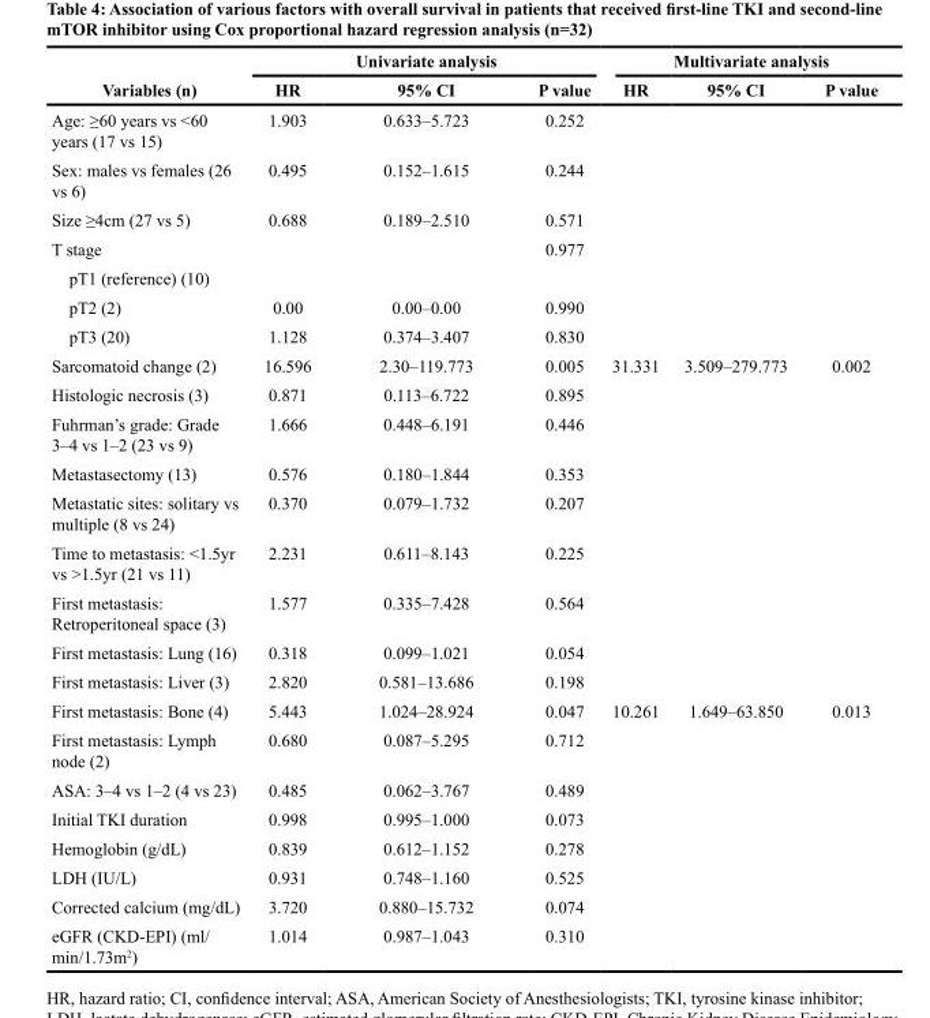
<table><thead><tr><td rowspan="2">Variables (n)</td><td colspan="3">Univariate analysis</td><td colspan="3">Multivariate analysis</td></tr><tr><td>HR</td><td>95% CI</td><td>P value</td><td>HR</td><td>95% CI</td><td>P value</td></tr></thead><tbody><tr><td>Age: ≥60 years vs &lt;60 years (17 vs 15)</td><td>1.903</td><td>0.633–5.723</td><td>0.252</td><td></td><td></td><td></td></tr><tr><td>Sex: males vs females (26 vs 6)</td><td>0.495</td><td>0.152–1.615</td><td>0.244</td><td></td><td></td><td></td></tr><tr><td>Size ≥4cm (27 vs 5)</td><td>0.688</td><td>0.189–2.510</td><td>0.571</td><td></td><td></td><td></td></tr><tr><td>T stage</td><td></td><td></td><td>0.977</td><td></td><td></td><td></td></tr><tr><td colspan="7">pT1 (reference) (10)</td></tr><tr><td>pT2 (2)</td><td>0.00</td><td>0.00–0.00</td><td>0.990</td><td></td><td></td><td></td></tr><tr><td>pT3 (20)</td><td>1.128</td><td>0.374–3.407</td><td>0.830</td><td></td><td></td><td></td></tr><tr><td>Sarcomatoid change (2)</td><td>16.596</td><td>2.30–119.773</td><td>0.005</td><td>31.331</td><td>3.509–279.773</td><td>0.002</td></tr><tr><td>Histologic necrosis (3)</td><td>0.871</td><td>0.113–6.722</td><td>0.895</td><td></td><td></td><td></td></tr><tr><td>Fuhrman’s grade: Grade 3–4 vs 1–2 (23 vs 9)</td><td>1.666</td><td>0.448–6.191</td><td>0.446</td><td></td><td></td><td></td></tr><tr><td>Metastasectomy (13)</td><td>0.576</td><td>0.180–1.844</td><td>0.353</td><td></td><td></td><td></td></tr><tr><td>Metastatic sites: solitary vs multiple (8 vs 24)</td><td>0.370</td><td>0.079–1.732</td><td>0.207</td><td></td><td></td><td></td></tr><tr><td>Time to metastasis: &lt;1.5yr vs &gt;1.5yr (21 vs 11)</td><td>2.231</td><td>0.611–8.143</td><td>0.225</td><td></td><td></td><td></td></tr><tr><td>First metastasis: Retroperitoneal space (3)</td><td>1.577</td><td>0.335–7.428</td><td>0.564</td><td></td><td></td><td></td></tr><tr><td>First metastasis: Lung (16)</td><td>0.318</td><td>0.099–1.021</td><td>0.054</td><td></td><td></td><td></td></tr><tr><td>First metastasis: Liver (3)</td><td>2.820</td><td>0.581–13.686</td><td>0.198</td><td></td><td></td><td></td></tr><tr><td>First metastasis: Bone (4)</td><td>5.443</td><td>1.024–28.924</td><td>0.047</td><td>10.261</td><td>1.649–63.850</td><td>0.013</td></tr><tr><td>First metastasis: Lymph node (2)</td><td>0.680</td><td>0.087–5.295</td><td>0.712</td><td></td><td></td><td></td></tr><tr><td>ASA: 3–4 vs 1–2 (4 vs 23)</td><td>0.485</td><td>0.062–3.767</td><td>0.489</td><td></td><td></td><td></td></tr><tr><td>Initial TKI duration</td><td>0.998</td><td>0.995–1.000</td><td>0.073</td><td></td><td></td><td></td></tr><tr><td>Hemoglobin (g/dL)</td><td>0.839</td><td>0.612–1.152</td><td>0.278</td><td></td><td></td><td></td></tr><tr><td>LDH (IU/L)</td><td>0.931</td><td>0.748–1.160</td><td>0.525</td><td></td><td></td><td></td></tr><tr><td>Corrected calcium (mg/dL)</td><td>3.720</td><td>0.880–15.732</td><td>0.074</td><td></td><td></td><td></td></tr><tr><td>eGFR (CKD-EPI) (ml/ min/1.73m<sup>2</sup>)</td><td>1.014</td><td>0.987–1.043</td><td>0.310</td><td></td><td></td><td></td></tr></tbody></table>